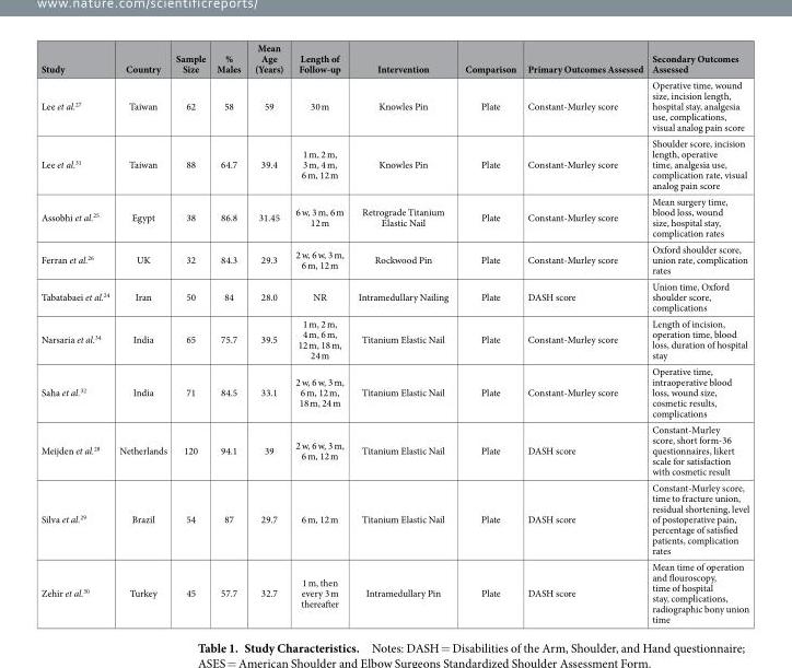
<table><thead><tr><td>Study</td><td>Country</td><td>Sample Size</td><td>% Males</td><td>Mean Age (Years)</td><td>Length of Follow-up</td><td>Intervention</td><td>Comparison</td><td>Primary Outcomes Assessed</td><td>Secondary Outcomes Assessed</td></tr></thead><tbody><tr><td>Lee et al.<sup>27</sup></td><td>Taiwan</td><td>62</td><td>58</td><td>59</td><td>30 m</td><td>Knowles Pin</td><td>Plate</td><td>Constant-Murley score</td><td>Operative time, wound size, incision length, hospital stay, analgesia use, complications, visual analog pain score</td></tr><tr><td>Lee et al.<sup>31</sup></td><td>Taiwan</td><td>88</td><td>64.7</td><td>39.4</td><td>1 m, 2 m, 3 m, 4 m, 6 m, 12 m</td><td>Knowles Pin</td><td>Plate</td><td>Constant-Murley score</td><td>Shoulder score, incision length, operative time, analgesia use, complication rate, visual analog pain score</td></tr><tr><td>Assobhi et al.<sup>25</sup></td><td>Egypt</td><td>38</td><td>86.8</td><td>31.45</td><td>6 w, 3 m, 6 m 12 m</td><td>Retrograde Titanium Elastic Nail</td><td>Plate</td><td>Constant-Murley score</td><td>Mean surgery time, blood loss, wound size, hospital stay, complication rates</td></tr><tr><td>Ferran et al.<sup>26</sup></td><td>UK</td><td>32</td><td>84.3</td><td>29.3</td><td>2 w, 6 w, 3 m, 6 m, 12 m</td><td>Rockwood Pin</td><td>Plate</td><td>Constant-Murley score</td><td>Oxford shoulder score, union rate, complication rates</td></tr><tr><td>Tabatabaei et al.<sup>24</sup></td><td>Iran</td><td>50</td><td>84</td><td>28.0</td><td>NR</td><td>Intramedullary Nailing</td><td>Plate</td><td>DASH score</td><td>Union time, Oxford shoulder score, complications</td></tr><tr><td>Narsaria et al.<sup>34</sup></td><td>India</td><td>65</td><td>75.7</td><td>39.5</td><td>1 m, 2 m, 4 m, 6 m, 12 m, 18 m, 24 m</td><td>Titanium Elastic Nail</td><td>Plate</td><td>Constant-Murley score</td><td>Length of incision, operation time, blood loss, duration of hospital stay</td></tr><tr><td>Saha et al.<sup>32</sup></td><td>India</td><td>71</td><td>84.5</td><td>33.1</td><td>2 w, 6 w, 3 m, 6 m, 12 m, 18 m, 24 m</td><td>Titanium Elastic Nail</td><td>Plate</td><td>Constant-Murley score</td><td>Operative time, intraoperative blood loss, wound size, cosmetic results, complications</td></tr><tr><td>Meijden et al.<sup>28</sup></td><td>Netherlands</td><td>120</td><td>94.1</td><td>39</td><td>2 w, 6 w, 3 m, 6 m, 12 m</td><td>Titanium Elastic Nail</td><td>Plate</td><td>DASH score</td><td>Constant-Murley score, short form-36 questionnaires, likert scale for satisfaction with cosmetic result</td></tr><tr><td>Silva et al.<sup>29</sup></td><td>Brazil</td><td>54</td><td>87</td><td>29.7</td><td>6 m, 12 m</td><td>Titanium Elastic Nail</td><td>Plate</td><td>DASH score</td><td>Constant-Murley score, time to fracture union, residual shortening, level of postoperative pain, percentage of satisfied patients, complication rates</td></tr><tr><td>Zehir et al.<sup>30</sup></td><td>Turkey</td><td>45</td><td>57.7</td><td>32.7</td><td>1 m, then every 3 m thereafter</td><td>Intramedullary Pin</td><td>Plate</td><td>DASH score</td><td>Mean time of operation and flouroscopy, time of hospital stay, complications, radiographic bony union time</td></tr></tbody></table>